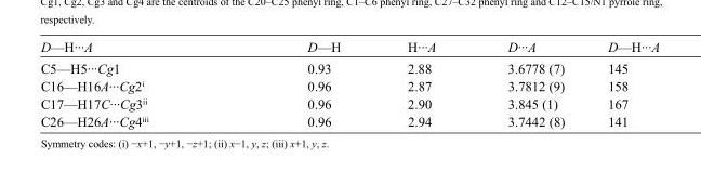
<table><tbody><tr><td>D—H···A</td><td>D—H</td><td>H···A</td><td>D···A</td><td>D—H···A</td></tr><tr><td>C5—H5···Cg1</td><td>0.93</td><td>2.88</td><td>3.6778 (7)</td><td>145</td></tr><tr><td>C16—H16A···Cg2<sup>i</sup></td><td>0.96</td><td>2.87</td><td>3.7812 (9)</td><td>158</td></tr><tr><td>C17—H17C···Cg3<sup>ii</sup></td><td>0.96</td><td>2.90</td><td>3.845 (1)</td><td>167</td></tr><tr><td>C26—H26A···Cg4<sup>iii</sup></td><td>0.96</td><td>2.94</td><td>3.7442 (8)</td><td>141</td></tr></tbody></table>